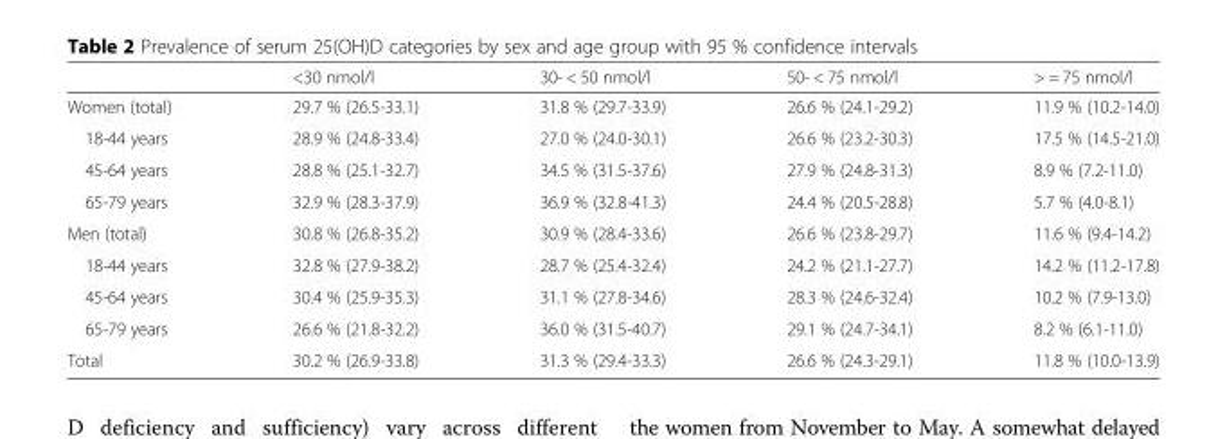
<table><thead><tr><td></td><td>&lt;30 nmol/l</td><td>30- &lt; 50 nmol/l</td><td>50- &lt; 75 nmol/l</td><td>&gt; = 75 nmol/l</td></tr></thead><tbody><tr><td>Women (total)</td><td>29.7 % (26.5-33.1)</td><td>31.8 % (29.7-33.9)</td><td>26.6 % (24.1-29.2)</td><td>11.9 % (10.2-14.0)</td></tr><tr><td>18-44 years</td><td>28.9 % (24.8-33.4)</td><td>27.0 % (24.0-30.1)</td><td>26.6 % (23.2-30.3)</td><td>17.5 % (14.5-21.0)</td></tr><tr><td>45-64 years</td><td>28.8 % (25.1-32.7)</td><td>34.5 % (31.5-37.6)</td><td>27.9 % (24.8-31.3)</td><td>8.9 % (7.2-11.0)</td></tr><tr><td>65-79 years</td><td>32.9 % (28.3-37.9)</td><td>36.9 % (32.8-41.3)</td><td>24.4 % (20.5-28.8)</td><td>5.7 % (4.0-8.1)</td></tr><tr><td>Men (total)</td><td>30.8 % (26.8-35.2)</td><td>30.9 % (28.4-33.6)</td><td>26.6 % (23.8-29.7)</td><td>11.6 % (9.4-14.2)</td></tr><tr><td>18-44 years</td><td>32.8 % (27.9-38.2)</td><td>28.7 % (25.4-32.4)</td><td>24.2 % (21.1-27.7)</td><td>14.2 % (11.2-17.8)</td></tr><tr><td>45-64 years</td><td>30.4 % (25.9-35.3)</td><td>31.1 % (27.8-34.6)</td><td>28.3 % (24.6-32.4)</td><td>10.2 % (7.9-13.0)</td></tr><tr><td>65-79 years</td><td>26.6 % (21.8-32.2)</td><td>36.0 % (31.5-40.7)</td><td>29.1 % (24.7-34.1)</td><td>8.2 % (6.1-11.0)</td></tr><tr><td>Total</td><td>30.2 % (26.9-33.8)</td><td>31.3 % (29.4-33.3)</td><td>26.6 % (24.3-29.1)</td><td>11.8 % (10.0-13.9)</td></tr></tbody></table>